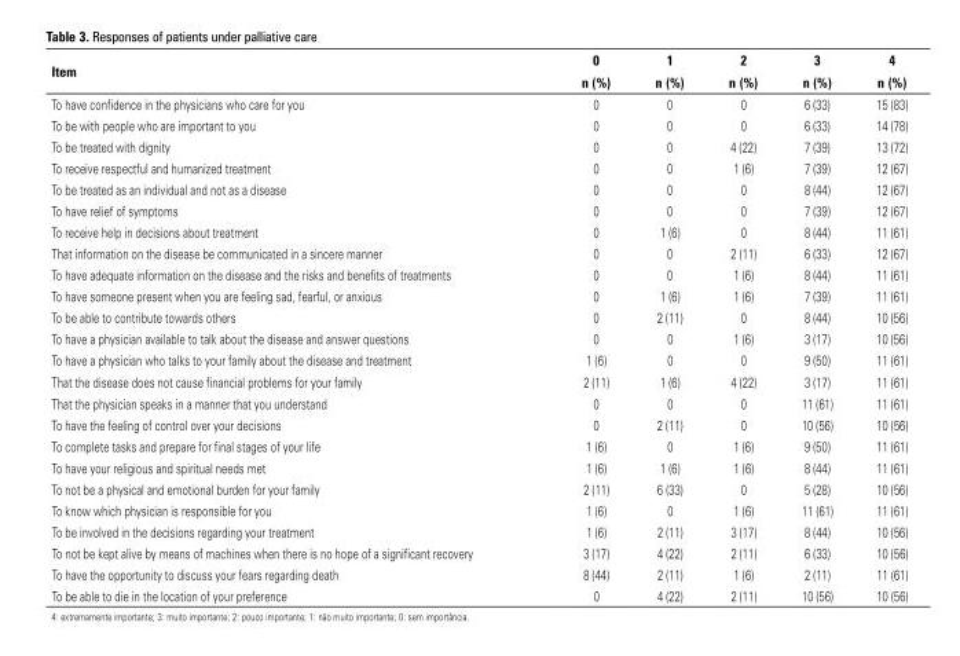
<table><thead><tr><td rowspan="2">Item</td><td rowspan="2">0 n (%)</td><td rowspan="2">1 n (%)</td><td rowspan="2">2 n (%)</td><td rowspan="2">3 n (%)</td><td rowspan="2">4 n (%)</td></tr><tr></tr></thead><tbody><tr><td>To have confidence in the physicians who care for you</td><td>0</td><td>0</td><td>0</td><td>6 (33)</td><td>15 (83)</td></tr><tr><td>To be with people who are important to you</td><td>0</td><td>0</td><td>0</td><td>6 (33)</td><td>14 (78)</td></tr><tr><td>To be treated with dignity</td><td>0</td><td>0</td><td>4 (22)</td><td>7 (39)</td><td>13 (72)</td></tr><tr><td>To receive respectful and humanized treatment</td><td>0</td><td>0</td><td>1 (6)</td><td>7 (39)</td><td>12 (67)</td></tr><tr><td>To be treated as an individual and not as a disease</td><td>0</td><td>0</td><td>0</td><td>8 (44)</td><td>12 (67)</td></tr><tr><td>To have relief of symptoms</td><td>0</td><td>0</td><td>0</td><td>7 (39)</td><td>12 (67)</td></tr><tr><td>To receive help in decisions about treatment</td><td>0</td><td>1 (6)</td><td>0</td><td>8 (44)</td><td>11 (61)</td></tr><tr><td>That information on the disease be communicated in a sincere manner</td><td>0</td><td>0</td><td>2 (11)</td><td>6 (33)</td><td>12 (67)</td></tr><tr><td>To have adequate information on the disease and the risks and benefits of treatments</td><td>0</td><td>0</td><td>1 (6)</td><td>8 (44)</td><td>11 (61)</td></tr><tr><td>To have someone present when you are feeling sad, fearful, or anxious</td><td>0</td><td>1 (6)</td><td>1 (6)</td><td>7 (39)</td><td>11 (61)</td></tr><tr><td>To be able to contribute towards others</td><td>0</td><td>2 (11)</td><td>0</td><td>8 (44)</td><td>10 (56)</td></tr><tr><td>To have a physician available to talk about the disease and answer questions</td><td>0</td><td>0</td><td>1 (6)</td><td>3 (17)</td><td>10 (56)</td></tr><tr><td>To have a physician who talks to your family about the disease and treatment</td><td>1 (6)</td><td>0</td><td>0</td><td>9 (50)</td><td>11 (61)</td></tr><tr><td>That the disease does not cause financial problems for your family</td><td>2 (11)</td><td>1 (6)</td><td>4 (22)</td><td>3 (17)</td><td>11 (61)</td></tr><tr><td>That the physician speaks in a manner that you understand</td><td>0</td><td>0</td><td>0</td><td>11 (61)</td><td>11 (61)</td></tr><tr><td>To have the feeling of control over your decisions</td><td>0</td><td>2 (11)</td><td>0</td><td>10 (56)</td><td>10 (56)</td></tr><tr><td>To complete tasks and prepare for final stages of your life</td><td>1 (6)</td><td>0</td><td>1 (6)</td><td>9 (50)</td><td>11 (61)</td></tr><tr><td>To have your religious and spiritual needs met</td><td>1 (6)</td><td>1 (6)</td><td>1 (6)</td><td>8 (44)</td><td>11 (61)</td></tr><tr><td>To not be a physical and emotional burden for your family</td><td>2 (11)</td><td>6 (33)</td><td>0</td><td>5 (28)</td><td>10 (56)</td></tr><tr><td>To know which physician is responsible for you</td><td>1 (6)</td><td>0</td><td>1 (6)</td><td>11 (61)</td><td>11 (61)</td></tr><tr><td>To be involved in the decisions regarding your treatment</td><td>1 (6)</td><td>2 (11)</td><td>3 (17)</td><td>8 (44)</td><td>10 (56)</td></tr><tr><td>To not be kept alive by means of machines when there is no hope of a significant recovery</td><td>3 (17)</td><td>4 (22)</td><td>2 (11)</td><td>6 (33)</td><td>10 (56)</td></tr><tr><td>To have the opportunity to discuss your fears regarding death</td><td>8 (44)</td><td>2 (11)</td><td>1 (6)</td><td>2 (11)</td><td>11 (61)</td></tr><tr><td>To be able to die in the location of your preference</td><td>0</td><td>4 (22)</td><td>2 (11)</td><td>10 (56)</td><td>10 (56)</td></tr></tbody></table>